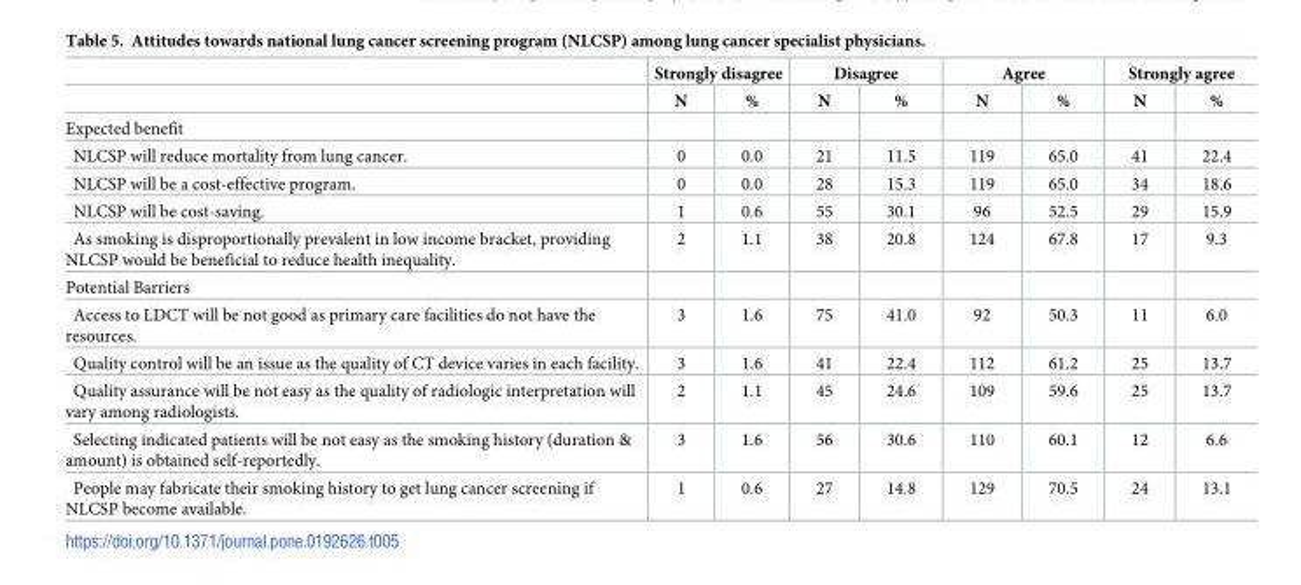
<table><thead><tr><td rowspan="2"></td><td colspan="2">Strongly disagree</td><td colspan="2">Disagree</td><td colspan="2">Agree</td><td colspan="2">Strongly agree</td></tr><tr><td>N</td><td>%</td><td>N</td><td>%</td><td>N</td><td>%</td><td>N</td><td>%</td></tr></thead><tbody><tr><td colspan="9">Expected benefit</td></tr><tr><td>NLCSP will reduce mortality from lung cancer.</td><td>0</td><td>0.0</td><td>21</td><td>11.5</td><td>119</td><td>65.0</td><td>41</td><td>22.4</td></tr><tr><td>NLCSP will be a cost-effective program.</td><td>0</td><td>0.0</td><td>28</td><td>15.3</td><td>119</td><td>65.0</td><td>34</td><td>18.6</td></tr><tr><td>NLCSP will be cost-saving.</td><td>1</td><td>0.6</td><td>55</td><td>30.1</td><td>96</td><td>52.5</td><td>29</td><td>15.9</td></tr><tr><td>As smoking is disproportionally prevalent in low income bracket, providing NLCSP would be beneficial to reduce health inequality.</td><td>2</td><td>1.1</td><td>38</td><td>20.8</td><td>124</td><td>67.8</td><td>17</td><td>9.3</td></tr><tr><td colspan="9">Potential Barriers</td></tr><tr><td>Access to LDCT will be not good as primary care facilities do not have the resources.</td><td>3</td><td>1.6</td><td>75</td><td>41.0</td><td>92</td><td>50.3</td><td>11</td><td>6.0</td></tr><tr><td>Quality control will be an issue as the quality of CT device varies in each facility.</td><td>3</td><td>1.6</td><td>41</td><td>22.4</td><td>112</td><td>61.2</td><td>25</td><td>13.7</td></tr><tr><td>Quality assurance will be not easy as the quality of radiologic interpretation will vary among radiologists.</td><td>2</td><td>1.1</td><td>45</td><td>24.6</td><td>109</td><td>59.6</td><td>25</td><td>13.7</td></tr><tr><td>Selecting indicated patients will be not easy as the smoking history (duration &amp; amount) is obtained self-reportedly.</td><td>3</td><td>1.6</td><td>56</td><td>30.6</td><td>110</td><td>60.1</td><td>12</td><td>6.6</td></tr><tr><td>People may fabricate their smoking history to get lung cancer screening if NLCSP become available.</td><td>1</td><td>0.6</td><td>27</td><td>14.8</td><td>129</td><td>70.5</td><td>24</td><td>13.1</td></tr></tbody></table>